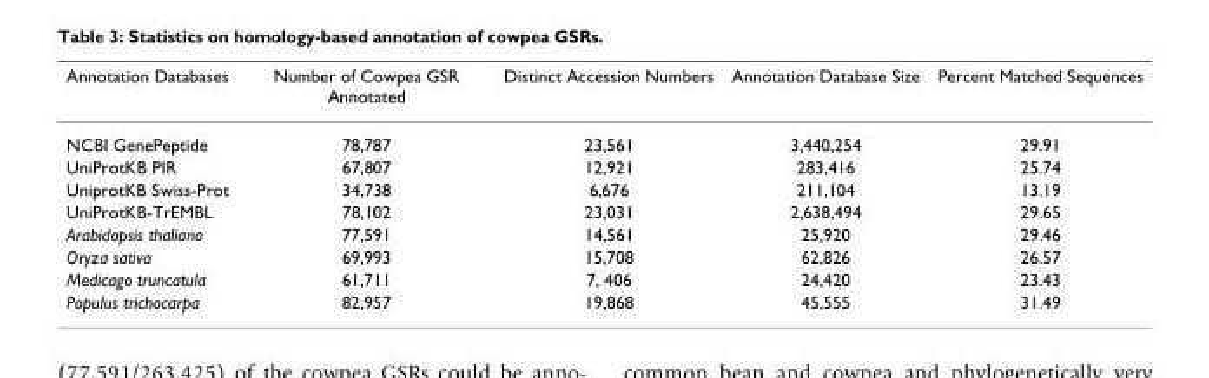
<table><thead><tr><td>Annotation Databases</td><td>Number of Cowpea GSR Annotated</td><td>Distinct Accession Numbers</td><td>Annotation Database Size</td><td>Percent Matched Sequences</td></tr></thead><tbody><tr><td>NCBI GenePeptide</td><td>78,787</td><td>23,561</td><td>3,440,254</td><td>29.91</td></tr><tr><td>UniProtKB PIR</td><td>67,807</td><td>12,921</td><td>283,416</td><td>25.74</td></tr><tr><td>UniprotKB Swiss-Prot</td><td>34,738</td><td>6,676</td><td>211,104</td><td>13.19</td></tr><tr><td>UniProtKB-TrEMBL</td><td>78,102</td><td>23,031</td><td>2,638,494</td><td>29.65</td></tr><tr><td>Arabidopsis thaliana</td><td>77,591</td><td>14,561</td><td>25,920</td><td>29.46</td></tr><tr><td>Oryza sativa</td><td>69,993</td><td>15,708</td><td>62,826</td><td>26.57</td></tr><tr><td>Medicago truncatula</td><td>61,711</td><td>7, 406</td><td>24,420</td><td>23.43</td></tr><tr><td>Populus trichocarpa</td><td>82,957</td><td>19,868</td><td>45,555</td><td>31.49</td></tr></tbody></table>